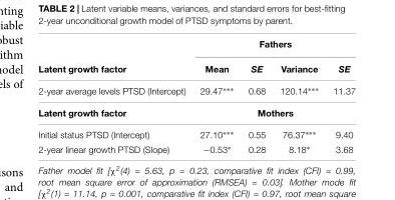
<table><thead><tr><td rowspan="2">Latent growth factor</td><td colspan="4">Fathers</td></tr><tr><td>Mean</td><td>SE</td><td>Variance</td><td>SE</td></tr></thead><tbody><tr><td>2-year average levels PTSD (Intercept)</td><td>29.47∗∗∗</td><td>0.68</td><td>120.14∗∗∗</td><td>11.37</td></tr><tr><td>Latent growth factor</td><td colspan="4">Mothers</td></tr><tr><td>Initial status PTSD (Intercept)</td><td>27.10∗∗∗</td><td>0.55</td><td>76.37∗∗∗</td><td>9.40</td></tr><tr><td>2-year linear growth PTSD (Slope)</td><td>−0.53∗</td><td>0.28</td><td>8.18∗</td><td>3.68</td></tr></tbody></table>